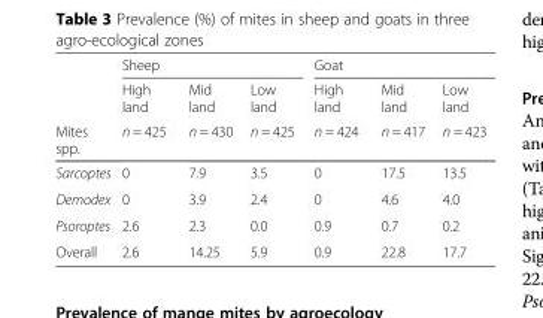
<table><thead><tr><td rowspan="3">Mites spp.</td><td colspan="3">Sheep</td><td colspan="3">Goat</td></tr><tr><td rowspan="2">High land n = 425</td><td rowspan="2">Mid land n = 430</td><td rowspan="2">Low land n = 425</td><td rowspan="2">High land n = 424</td><td rowspan="2">Mid land n = 417</td><td rowspan="2">Low land n = 423</td></tr><tr></tr></thead><tbody><tr><td>Sarcoptes</td><td>0</td><td>7.9</td><td>3.5</td><td>0</td><td>17.5</td><td>13.5</td></tr><tr><td>Demodex</td><td>0</td><td>3.9</td><td>2.4</td><td>0</td><td>4.6</td><td>4.0</td></tr><tr><td>Psoroptes</td><td>2.6</td><td>2.3</td><td>0.0</td><td>0.9</td><td>0.7</td><td>0.2</td></tr><tr><td>Overall</td><td>2.6</td><td>14.25</td><td>5.9</td><td>0.9</td><td>22.8</td><td>17.7</td></tr></tbody></table>